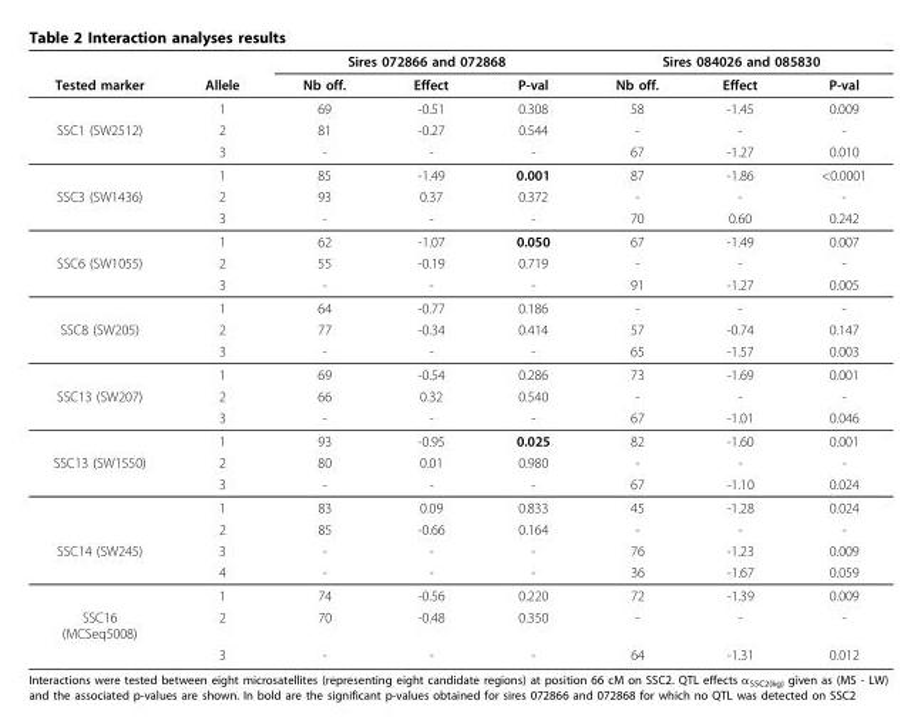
<table><thead><tr><td rowspan="2">Tested marker</td><td rowspan="2">Allele</td><td colspan="3">Sires 072866 and 072868</td><td colspan="3">Sires 084026 and 085830</td></tr><tr><td>Nb off.</td><td>Effect</td><td>P-val</td><td>Nb off.</td><td>Effect</td><td>P-val</td></tr></thead><tbody><tr><td></td><td>1</td><td>69</td><td>-0.51</td><td>0.308</td><td>58</td><td>-1.45</td><td>0.009</td></tr><tr><td rowspan="3">SSC1 (SW2512)</td><td>2</td><td>81</td><td>-0.27</td><td>0.544</td><td>-</td><td>-</td><td>-</td></tr><tr><td>3</td><td>-</td><td>-</td><td>-</td><td>67</td><td>-1.27</td><td>0.010</td></tr><tr><td>1</td><td>85</td><td>-1.49</td><td>0.001</td><td>87</td><td>-1.86</td><td>&lt;0.0001</td></tr><tr><td rowspan="3">SSC3 (SW1436)</td><td>2</td><td>93</td><td>0.37</td><td>0.372</td><td>-</td><td>-</td><td>-</td></tr><tr><td>3</td><td>-</td><td>-</td><td>-</td><td>70</td><td>0.60</td><td>0.242</td></tr><tr><td>1</td><td>62</td><td>-1.07</td><td>0.050</td><td>67</td><td>-1.49</td><td>0.007</td></tr><tr><td rowspan="3">SSC6 (SW1055)</td><td>2</td><td>55</td><td>-0.19</td><td>0.719</td><td>-</td><td>-</td><td>-</td></tr><tr><td>3</td><td>-</td><td>-</td><td>-</td><td>91</td><td>-1.27</td><td>0.005</td></tr><tr><td>1</td><td>64</td><td>-0.77</td><td>0.186</td><td>-</td><td>-</td><td>-</td></tr><tr><td rowspan="3">SSC8 (SW205)</td><td>2</td><td>77</td><td>-0.34</td><td>0.414</td><td>57</td><td>-0.74</td><td>0.147</td></tr><tr><td>3</td><td>-</td><td>-</td><td>-</td><td>65</td><td>-1.57</td><td>0.003</td></tr><tr><td>1</td><td>69</td><td>-0.54</td><td>0.286</td><td>73</td><td>-1.69</td><td>0.001</td></tr><tr><td rowspan="3">SSC13 (SW207)</td><td>2</td><td>66</td><td>0.32</td><td>0.540</td><td>-</td><td>-</td><td>-</td></tr><tr><td>3</td><td>-</td><td>-</td><td>-</td><td>67</td><td>-1.01</td><td>0.046</td></tr><tr><td>1</td><td>93</td><td>-0.95</td><td>0.025</td><td>82</td><td>-1.60</td><td>0.001</td></tr><tr><td rowspan="4">SSC13 (SW1550)</td><td>2</td><td>80</td><td>0.01</td><td>0.980</td><td>-</td><td>-</td><td>-</td></tr><tr><td>3</td><td>-</td><td>-</td><td>-</td><td>67</td><td>-1.10</td><td>0.024</td></tr><tr><td>1</td><td>83</td><td>0.09</td><td>0.833</td><td>45</td><td>-1.28</td><td>0.024</td></tr><tr><td>2</td><td>85</td><td>-0.66</td><td>0.164</td><td>-</td><td>-</td><td>-</td></tr><tr><td rowspan="3">SSC14 (SW245)</td><td>3</td><td>-</td><td>-</td><td>-</td><td>76</td><td>-1.23</td><td>0.009</td></tr><tr><td>4</td><td>-</td><td>-</td><td>-</td><td>36</td><td>-1.67</td><td>0.059</td></tr><tr><td>1</td><td>74</td><td>-0.56</td><td>0.220</td><td>72</td><td>-1.39</td><td>0.009</td></tr><tr><td rowspan="2">SSC16 (MCSeq5008)</td><td>2</td><td>70</td><td>-0.48</td><td>0.350</td><td>-</td><td>-</td><td>-</td></tr><tr><td>3</td><td>-</td><td>-</td><td>-</td><td>64</td><td>-1.31</td><td>0.012</td></tr></tbody></table>